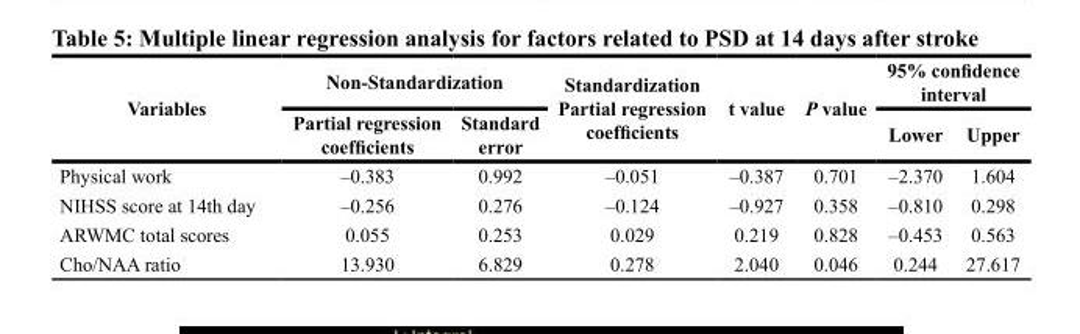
<table><thead><tr><td rowspan="2">Variables</td><td colspan="2">Non-Standardization</td><td rowspan="2">Standardization Partial regression coefficients</td><td rowspan="2">t value</td><td rowspan="2">P value</td><td colspan="2">95% confidence interval</td></tr><tr><td>Partial regression coefficients</td><td>Standard error</td><td>Lower</td><td>Upper</td></tr></thead><tbody><tr><td>Physical work</td><td>–0.383</td><td>0.992</td><td>–0.051</td><td>–0.387</td><td>0.701</td><td>–2.370</td><td>1.604</td></tr><tr><td>NIHSS score at 14th day</td><td>–0.256</td><td>0.276</td><td>–0.124</td><td>–0.927</td><td>0.358</td><td>–0.810</td><td>0.298</td></tr><tr><td>ARWMC total scores</td><td>0.055</td><td>0.253</td><td>0.029</td><td>0.219</td><td>0.828</td><td>–0.453</td><td>0.563</td></tr><tr><td>Cho/NAA ratio</td><td>13.930</td><td>6.829</td><td>0.278</td><td>2.040</td><td>0.046</td><td>0.244</td><td>27.617</td></tr></tbody></table>